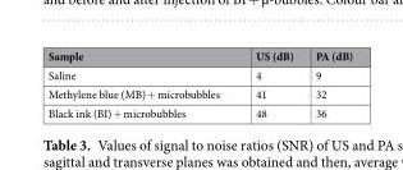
<table><thead><tr><td>Sample</td><td>US (dB)</td><td>PA (dB)</td></tr></thead><tbody><tr><td>Saline</td><td>4</td><td>9</td></tr><tr><td>Methylene blue (MB) + microbubbles</td><td>41</td><td>32</td></tr><tr><td>Black ink (BI) + microbubbles</td><td>48</td><td>36</td></tr></tbody></table>